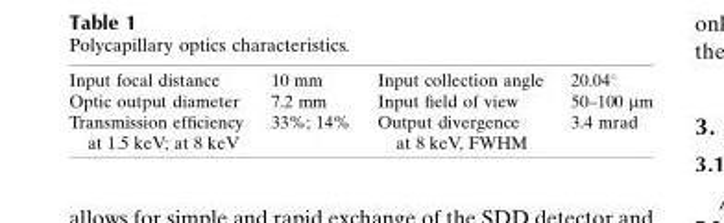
<table><tbody><tr><td>Input focal distance</td><td>10 mm</td><td>Input collection angle</td><td>20.04°</td></tr><tr><td>Optic output diameter</td><td>7.2 mm</td><td>Input field of view</td><td>50–100 µm</td></tr><tr><td>Transmission efficiency at 1.5 keV; at 8 keV</td><td>33%; 14%</td><td>Output divergence at 8 keV, FWHM</td><td>3.4 mrad</td></tr></tbody></table>